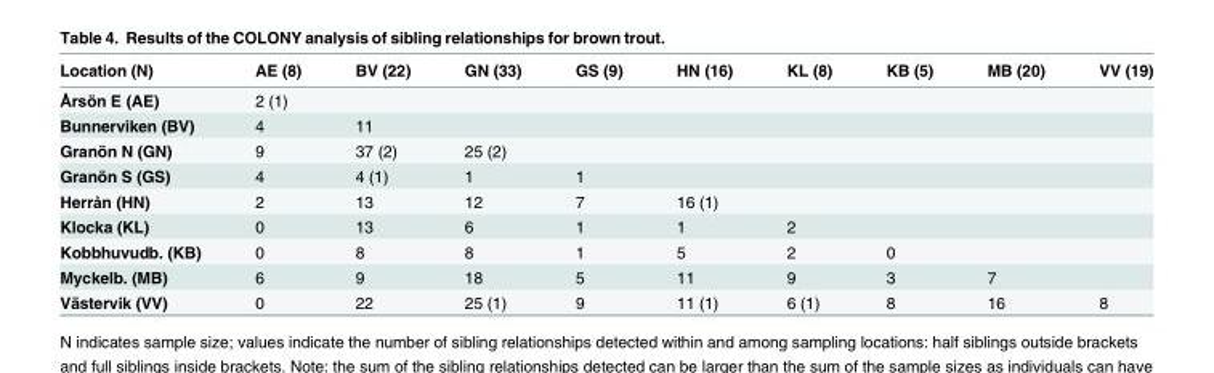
<table><thead><tr><td>Location (N)</td><td>AE (8)</td><td>BV (22)</td><td>GN (33)</td><td>GS (9)</td><td>HN (16)</td><td>KL (8)</td><td>KB (5)</td><td>MB (20)</td><td>VV (19)</td></tr></thead><tbody><tr><td>Årsön E (AE)</td><td>2 (1)</td><td></td><td></td><td></td><td></td><td></td><td></td><td></td><td></td></tr><tr><td>Bunnerviken (BV)</td><td>4</td><td>11</td><td></td><td></td><td></td><td></td><td></td><td></td><td></td></tr><tr><td>Granön N (GN)</td><td>9</td><td>37 (2)</td><td>25 (2)</td><td></td><td></td><td></td><td></td><td></td><td></td></tr><tr><td>Granön S (GS)</td><td>4</td><td>4 (1)</td><td>1</td><td>1</td><td></td><td></td><td></td><td></td><td></td></tr><tr><td>Herrån (HN)</td><td>2</td><td>13</td><td>12</td><td>7</td><td>16 (1)</td><td></td><td></td><td></td><td></td></tr><tr><td>Klocka (KL)</td><td>0</td><td>13</td><td>6</td><td>1</td><td>1</td><td>2</td><td></td><td></td><td></td></tr><tr><td>Kobbhuvudb. (KB)</td><td>0</td><td>8</td><td>8</td><td>1</td><td>5</td><td>2</td><td>0</td><td></td><td></td></tr><tr><td>Myckelb. (MB)</td><td>6</td><td>9</td><td>18</td><td>5</td><td>11</td><td>9</td><td>3</td><td>7</td><td></td></tr><tr><td>Västervik (VV)</td><td>0</td><td>22</td><td>25 (1)</td><td>9</td><td>11 (1)</td><td>6 (1)</td><td>8</td><td>16</td><td>8</td></tr></tbody></table>